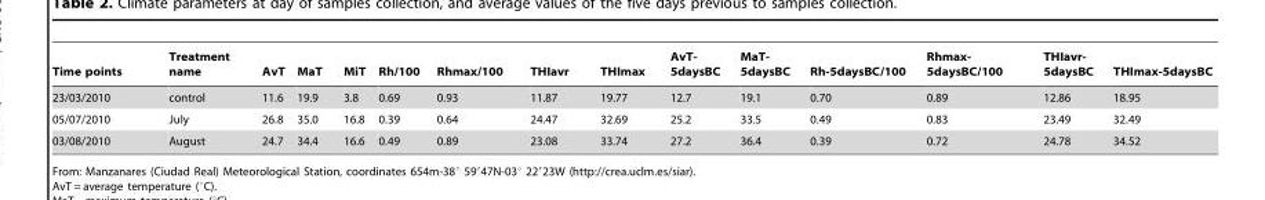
<table><thead><tr><td>Time points</td><td>Treatment name</td><td>AvT</td><td>MaT</td><td>MiT</td><td>Rh/100</td><td>Rhmax/100</td><td>THIavr</td><td>THImax</td><td>AvT- 5daysBC</td><td>MaT- 5daysBC</td><td>Rh-5daysBC/100</td><td>Rhmax- 5daysBC/100</td><td>THIavr- 5daysBC</td><td>THImax-5daysBC</td></tr></thead><tbody><tr><td>23/03/2010</td><td>control</td><td>11.6</td><td>19.9</td><td>3.8</td><td>0.69</td><td>0.93</td><td>11.87</td><td>19.77</td><td>12.7</td><td>19.1</td><td>0.70</td><td>0.89</td><td>12.86</td><td>18.95</td></tr><tr><td>05/07/2010</td><td>July</td><td>26.8</td><td>35.0</td><td>16.8</td><td>0.39</td><td>0.64</td><td>24.47</td><td>32.69</td><td>25.2</td><td>33.5</td><td>0.49</td><td>0.83</td><td>23.49</td><td>32.49</td></tr><tr><td>03/08/2010</td><td>August</td><td>24.7</td><td>34.4</td><td>16.6</td><td>0.49</td><td>0.89</td><td>23.08</td><td>33.74</td><td>27.2</td><td>36.4</td><td>0.39</td><td>0.72</td><td>24.78</td><td>34.52</td></tr></tbody></table>